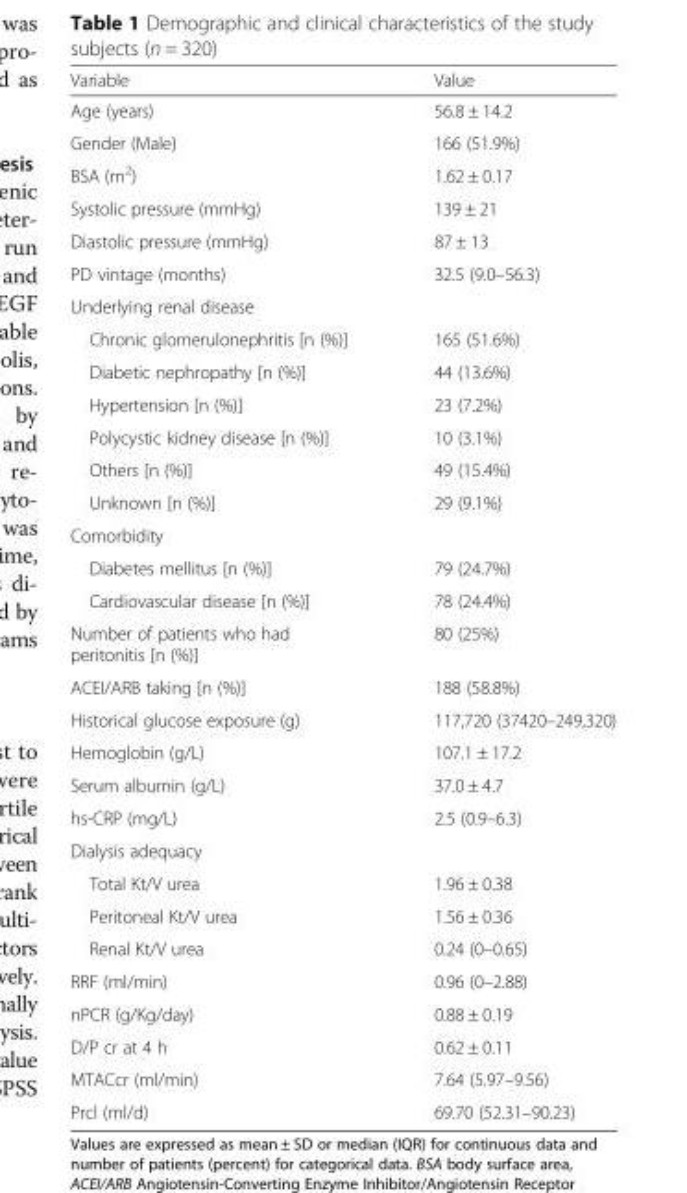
<table><thead><tr><td>Variable</td><td>Value</td></tr></thead><tbody><tr><td>Age (years)</td><td>56.8 ± 14.2</td></tr><tr><td>Gender (Male)</td><td>166 (51.9%)</td></tr><tr><td>BSA (m<sup>2</sup>)</td><td>1.62 ± 0.17</td></tr><tr><td>Systolic pressure (mmHg)</td><td>139 ± 21</td></tr><tr><td>Diastolic pressure (mmHg)</td><td>87 ± 13</td></tr><tr><td>PD vintage (months)</td><td>32.5 (9.0–56.3)</td></tr><tr><td colspan="2">Underlying renal disease</td></tr><tr><td>Chronic glomerulonephritis [n (%)]</td><td>165 (51.6%)</td></tr><tr><td>Diabetic nephropathy [n (%)]</td><td>44 (13.6%)</td></tr><tr><td>Hypertension [n (%)]</td><td>23 (7.2%)</td></tr><tr><td>Polycystic kidney disease [n (%)]</td><td>10 (3.1%)</td></tr><tr><td>Others [n (%)]</td><td>49 (15.4%)</td></tr><tr><td>Unknown [n (%)]</td><td>29 (9.1%)</td></tr><tr><td colspan="2">Comorbidity</td></tr><tr><td>Diabetes mellitus [n (%)]</td><td>79 (24.7%)</td></tr><tr><td>Cardiovascular disease [n (%)]</td><td>78 (24.4%)</td></tr><tr><td>Number of patients who had peritonitis [n (%)]</td><td>80 (25%)</td></tr><tr><td>ACEI/ARB taking [n (%)]</td><td>188 (58.8%)</td></tr><tr><td>Historical glucose exposure (g)</td><td>117,720 (37420–249,320)</td></tr><tr><td>Hemoglobin (g/L)</td><td>107.1 ± 17.2</td></tr><tr><td>Serum albumin (g/L)</td><td>37.0 ± 4.7</td></tr><tr><td>hs-CRP (mg/L)</td><td>2.5 (0.9–6.3)</td></tr><tr><td colspan="2">Dialysis adequacy</td></tr><tr><td>Total Kt/V urea</td><td>1.96 ± 0.38</td></tr><tr><td>Peritoneal Kt/V urea</td><td>1.56 ± 0.36</td></tr><tr><td>Renal Kt/V urea</td><td>0.24 (0–0.65)</td></tr><tr><td>RRF (ml/min)</td><td>0.96 (0–2.88)</td></tr><tr><td>nPCR (g/Kg/day)</td><td>0.88 ± 0.19</td></tr><tr><td>D/P cr at 4 h</td><td>0.62 ± 0.11</td></tr><tr><td>MTACcr (ml/min)</td><td>7.64 (5.97–9.56)</td></tr><tr><td>Prcl (ml/d)</td><td>69.70 (52.31–90.23)</td></tr></tbody></table>